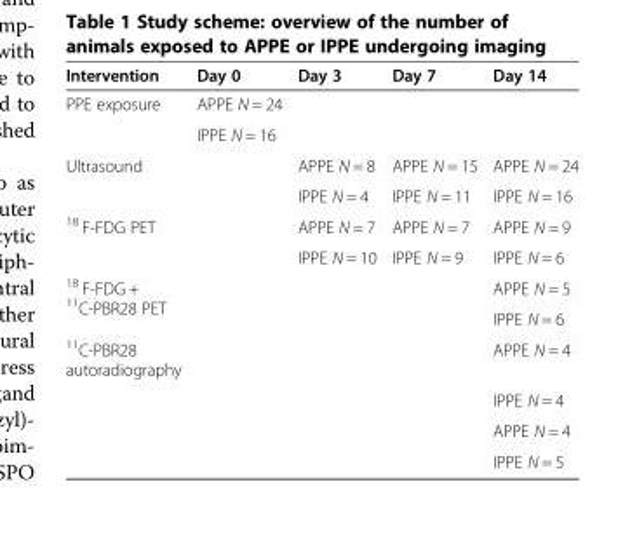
<table><thead><tr><td>Intervention</td><td>Day 0</td><td>Day 3</td><td>Day 7</td><td>Day 14</td></tr></thead><tbody><tr><td rowspan="2">PPE exposure</td><td>APPE N = 24</td><td></td><td></td><td></td></tr><tr><td>IPPE N = 16</td><td></td><td></td><td></td></tr><tr><td rowspan="2">Ultrasound</td><td rowspan="2"></td><td>APPE N = 8</td><td>APPE N = 15</td><td>APPE N = 24</td></tr><tr><td>IPPE N = 4</td><td>IPPE N = 11</td><td>IPPE N = 16</td></tr><tr><td rowspan="2"><sup>18</sup> F-FDG PET</td><td rowspan="2"></td><td>APPE N = 7</td><td>APPE N = 7</td><td>APPE N = 9</td></tr><tr><td>IPPE N = 10</td><td>IPPE N = 9</td><td>IPPE N = 6</td></tr><tr><td rowspan="2"><sup>18</sup> F-FDG + <sup>11</sup>C-PBR28 PET</td><td rowspan="2"></td><td rowspan="3"></td><td rowspan="2"></td><td>APPE N = 5</td></tr><tr><td>IPPE N = 6</td></tr><tr><td rowspan="4"><sup>11</sup>C-PBR28 autoradiography</td><td></td><td></td><td>APPE N = 4</td></tr><tr><td></td><td></td><td></td><td>IPPE N = 4</td></tr><tr><td></td><td></td><td></td><td>APPE N = 4</td></tr><tr><td></td><td></td><td></td><td>IPPE N = 5</td></tr></tbody></table>